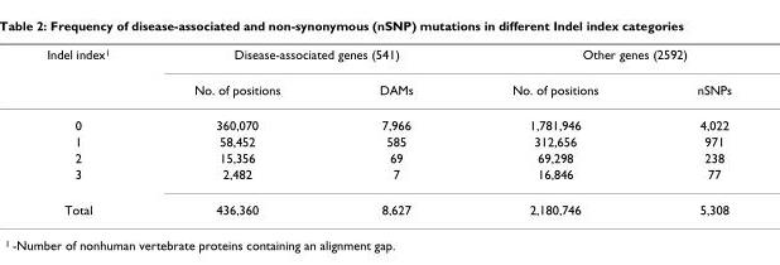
<table><thead><tr><td rowspan="2">Indel index1</td><td colspan="2">Disease-associated genes (541)</td><td colspan="2">Other genes (2592)</td></tr><tr><td>No. of positions</td><td>DAMs</td><td>No. of positions</td><td>nSNPs</td></tr></thead><tbody><tr><td>0</td><td>360,070</td><td>7,966</td><td>1,781,946</td><td>4,022</td></tr><tr><td>1</td><td>58,452</td><td>585</td><td>312,656</td><td>971</td></tr><tr><td>2</td><td>15,356</td><td>69</td><td>69,298</td><td>238</td></tr><tr><td>3</td><td>2,482</td><td>7</td><td>16,846</td><td>77</td></tr><tr><td>Total</td><td>436,360</td><td>8,627</td><td>2,180,746</td><td>5,308</td></tr></tbody></table>